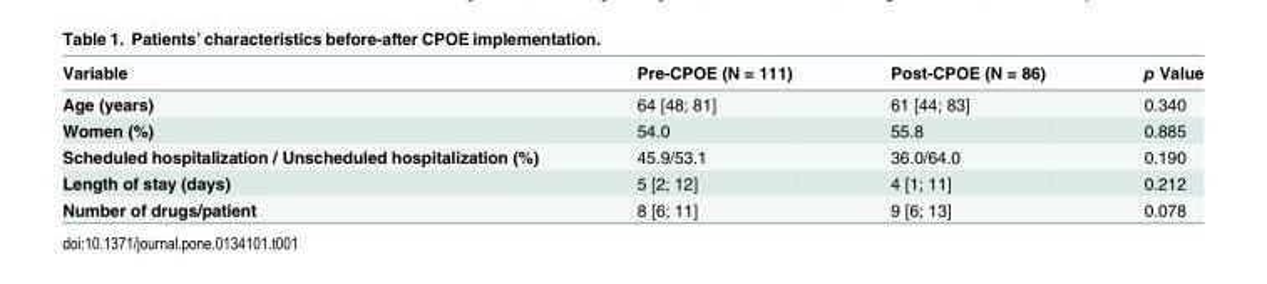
<table><thead><tr><td>Variable</td><td>Pre-CPOE (N = 111)</td><td>Post-CPOE (N = 86)</td><td>p Value</td></tr></thead><tbody><tr><td>Age (years)</td><td>64 [48; 81]</td><td>61 [44; 83]</td><td>0.340</td></tr><tr><td>Women (%)</td><td>54.0</td><td>55.8</td><td>0.885</td></tr><tr><td>Scheduled hospitalization / Unscheduled hospitalization (%)</td><td>45.9/53.1</td><td>36.0/64.0</td><td>0.190</td></tr><tr><td>Length of stay (days)</td><td>5 [2; 12]</td><td>4 [1; 11]</td><td>0.212</td></tr><tr><td>Number of drugs/patient</td><td>8 [6; 11]</td><td>9 [6; 13]</td><td>0.078</td></tr></tbody></table>